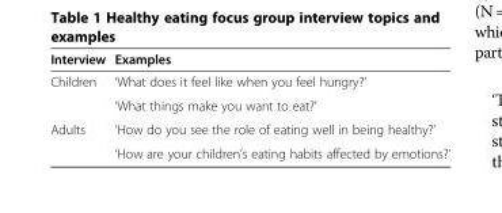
<table><thead><tr><td>Interview</td><td>Examples</td></tr></thead><tbody><tr><td rowspan="2">Children</td><td>‘What does it feel like when you feel hungry?’</td></tr><tr><td>‘What things make you want to eat?’</td></tr><tr><td rowspan="2">Adults</td><td>‘How do you see the role of eating well in being healthy?’</td></tr><tr><td>‘How are your children’s eating habits affected by emotions?’</td></tr></tbody></table>